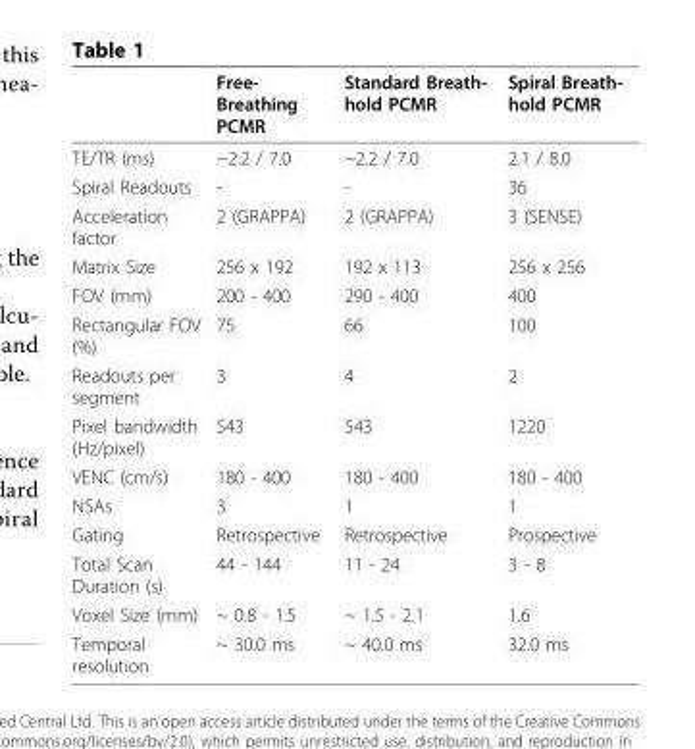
<table><thead><tr><td></td><td>Free- Breathing PCMR</td><td>Standard Breath- hold PCMR</td><td>Spiral Breath- hold PCMR</td></tr></thead><tbody><tr><td>TE/TR (ms)</td><td>~2.2 / 7.0</td><td>~2.2 / 7.0</td><td>2.1 / 8.0</td></tr><tr><td>Spiral Readouts</td><td>-</td><td>-</td><td>36</td></tr><tr><td>Acceleration factor</td><td>2 (GRAPPA)</td><td>2 (GRAPPA)</td><td>3 (SENSE)</td></tr><tr><td>Matrix Size</td><td>256 x 192</td><td>192 x 113</td><td>256 x 256</td></tr><tr><td>FOV (mm)</td><td>200 - 400</td><td>290 - 400</td><td>400</td></tr><tr><td>Rectangular FOV (%)</td><td>75</td><td>66</td><td>100</td></tr><tr><td>Readouts per segment</td><td>3</td><td>4</td><td>2</td></tr><tr><td>Pixel bandwidth (Hz/pixel)</td><td>543</td><td>543</td><td>1220</td></tr><tr><td>VENC (cm/s)</td><td>180 - 400</td><td>180 - 400</td><td>180 - 400</td></tr><tr><td>NSAs</td><td>3</td><td>1</td><td>1</td></tr><tr><td>Gating</td><td>Retrospective</td><td>Retrospective</td><td>Prospective</td></tr><tr><td>Total Scan Duration (s)</td><td>44 - 144</td><td>11 - 24</td><td>3 - 8</td></tr><tr><td>Voxel Size (mm)</td><td>~ 0.8 - 1.5</td><td>~ 1.5 - 2.1</td><td>1.6</td></tr><tr><td>Temporal resolution</td><td>~ 30.0 ms</td><td>~ 40.0 ms</td><td>32.0 ms</td></tr></tbody></table>